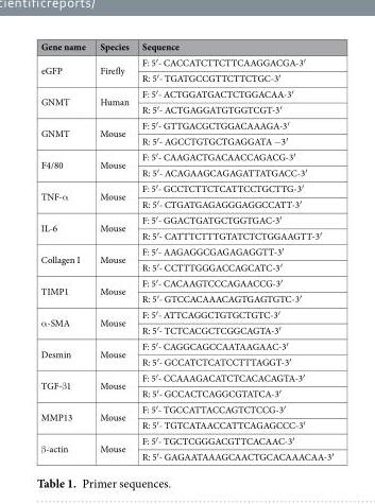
<table><thead><tr><td>Gene name</td><td>Species</td><td>Sequence</td></tr></thead><tbody><tr><td rowspan="2">eGFP</td><td rowspan="2">Firefly</td><td>F: 5′- CACCATCTTCTTCAAGGACGA-3′</td></tr><tr><td>R: 5′- TGATGCCGTTCTTCTGC-3′</td></tr><tr><td rowspan="2">GNMT</td><td rowspan="2">Human</td><td>F: 5′- ACTGGATGACTCTGGACAA-3′</td></tr><tr><td>R: 5′- ACTGAGGATGTGGTCGT-3′</td></tr><tr><td rowspan="2">GNMT</td><td rowspan="2">Mouse</td><td>F: 5′- GTTGACGCTGGACAAAGA-3′</td></tr><tr><td>R: 5′- AGCCTGTGCTGAGGATA −3′</td></tr><tr><td rowspan="2">F4/80</td><td rowspan="2">Mouse</td><td>F: 5′- CAAGACTGACAACCAGACG-3′</td></tr><tr><td>R: 5′- ACAGAAGCAGAGATTATGACC-3′</td></tr><tr><td rowspan="2">TNF-α</td><td rowspan="2">Mouse</td><td>F: 5′- GCCTCTTCTCATTCCTGCTTG-3′</td></tr><tr><td>R: 5′- CTGATGAGAGGGAGGCCATT-3′</td></tr><tr><td rowspan="2">IL-6</td><td rowspan="2">Mouse</td><td>F: 5′- GGACTGATGCTGGTGAC-3′</td></tr><tr><td>R: 5′- CATTTCTTTGTATCTCTGGAAGTT-3′</td></tr><tr><td rowspan="2">Collagen I</td><td rowspan="2">Mouse</td><td>F: 5′- AAGAGGCGAGAGAGGTT-3′</td></tr><tr><td>R: 5′- CCTTTGGGACCAGCATC-3′</td></tr><tr><td rowspan="2">TIMP1</td><td rowspan="2">Mouse</td><td>F: 5′- CACAAGTCCCAGAACCG-3′</td></tr><tr><td>R: 5′- GTCCACAAACAGTGAGTGTC-3′</td></tr><tr><td rowspan="2">α-SMA</td><td rowspan="2">Mouse</td><td>F: 5′- ATTCAGGCTGTGCTGTC-3′</td></tr><tr><td>R: 5′- TCTCACGCTCGGCAGTA-3′</td></tr><tr><td rowspan="2">Desmin</td><td rowspan="2">Mouse</td><td>F: 5′- CAGGCAGCCAATAAGAAC-3′</td></tr><tr><td>R: 5′- GCCATCTCATCCTTTAGGT-3′</td></tr><tr><td rowspan="2">TGF-β1</td><td rowspan="2">Mouse</td><td>F: 5′- CCAAAGACATCTCACACAGTA-3′</td></tr><tr><td>R: 5′- GCCACTCAGGCGTATCA-3′</td></tr><tr><td rowspan="2">MMP13</td><td rowspan="2">Mouse</td><td>F: 5′- TGCCATTACCAGTCTCCG-3′</td></tr><tr><td>R: 5′- TGTCATAACCATTCAGAGCCC-3′</td></tr><tr><td rowspan="2">β-actin</td><td rowspan="2">Mouse</td><td>F: 5′- TGCTCGGGACGTTCACAAC-3′</td></tr><tr><td>R: 5′- GAGAATAAAGCAACTGCACAAACAA-3′</td></tr></tbody></table>